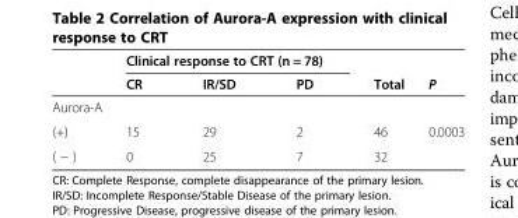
<table><thead><tr><td rowspan="2"></td><td colspan="3">Clinical response to CRT (n = 78)</td><td rowspan="2">Total</td><td rowspan="2">P</td></tr><tr><td>CR</td><td>IR/SD</td><td>PD</td></tr></thead><tbody><tr><td colspan="6">Aurora-A</td></tr><tr><td>(+)</td><td>15</td><td>29</td><td>2</td><td>46</td><td>0.0003</td></tr><tr><td>( − )</td><td>0</td><td>25</td><td>7</td><td>32</td><td></td></tr></tbody></table>